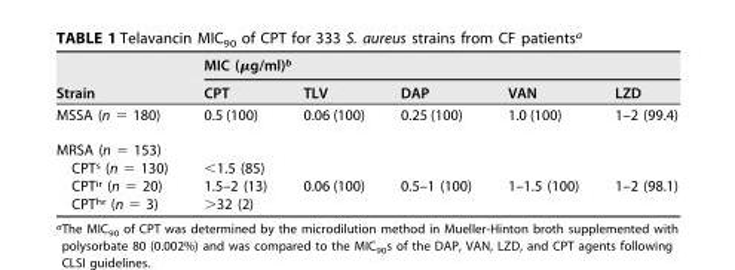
<table><thead><tr><td rowspan="2">Strain</td><td colspan="5">MIC (μg/ml)<sup>b</sup></td></tr><tr><td>CPT</td><td>TLV</td><td>DAP</td><td>VAN</td><td>LZD</td></tr></thead><tbody><tr><td>MSSA (n = 180)</td><td>0.5 (100)</td><td>0.06 (100)</td><td>0.25 (100)</td><td>1.0 (100)</td><td>1–2 (99.4)</td></tr><tr><td colspan="6">MRSA (n = 153)</td></tr><tr><td>CPT<sup>s</sup> (n = 130)</td><td>&lt;1.5 (85)</td><td></td><td></td><td></td><td></td></tr><tr><td>CPT<sup>ir</sup> (n = 20)</td><td>1.5–2 (13)</td><td>0.06 (100)</td><td>0.5–1 (100)</td><td>1–1.5 (100)</td><td>1–2 (98.1)</td></tr><tr><td>CPT<sup>hr</sup> (n = 3)</td><td>&gt;32 (2)</td><td></td><td></td><td></td><td></td></tr></tbody></table>